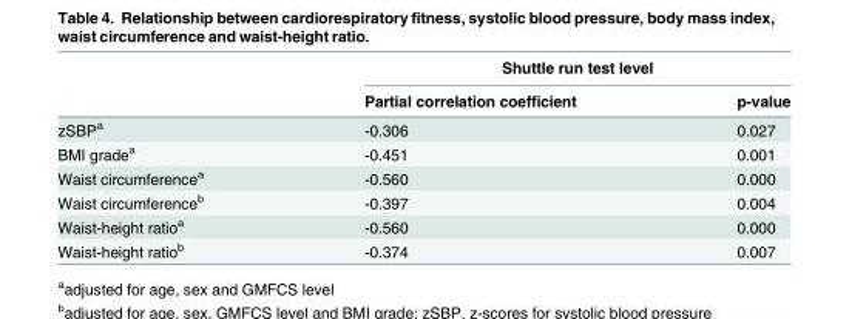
<table><thead><tr><td rowspan="2"></td><td colspan="2">Shuttle run test level</td></tr><tr><td>Partial correlation coefficient</td><td>p-value</td></tr></thead><tbody><tr><td>zSBP<sup>a</sup></td><td>-0.306</td><td>0.027</td></tr><tr><td>BMI grade<sup>a</sup></td><td>-0.451</td><td>0.001</td></tr><tr><td>Waist circumference<sup>a</sup></td><td>-0.560</td><td>0.000</td></tr><tr><td>Waist circumference<sup>b</sup></td><td>-0.397</td><td>0.004</td></tr><tr><td>Waist-height ratio<sup>a</sup></td><td>-0.560</td><td>0.000</td></tr><tr><td>Waist-height ratio<sup>b</sup></td><td>-0.374</td><td>0.007</td></tr></tbody></table>